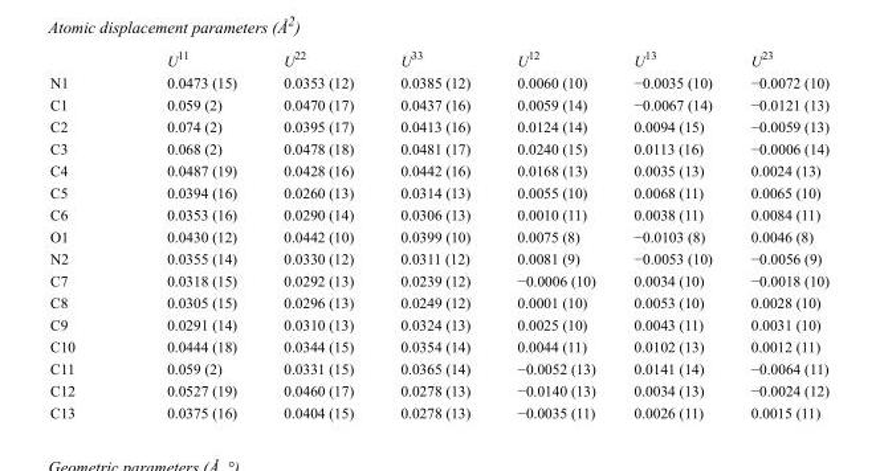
<table><thead><tr><td></td><td>U<sup>11</sup></td><td>U<sup>22</sup></td><td>U<sup>33</sup></td><td>U<sup>12</sup></td><td>U<sup>13</sup></td><td>U<sup>23</sup></td></tr></thead><tbody><tr><td>N1</td><td>0.0473 (15)</td><td>0.0353 (12)</td><td>0.0385 (12)</td><td>0.0060 (10)</td><td>−0.0035 (10)</td><td>−0.0072 (10)</td></tr><tr><td>C1</td><td>0.059 (2)</td><td>0.0470 (17)</td><td>0.0437 (16)</td><td>0.0059 (14)</td><td>−0.0067 (14)</td><td>−0.0121 (13)</td></tr><tr><td>C2</td><td>0.074 (2)</td><td>0.0395 (17)</td><td>0.0413 (16)</td><td>0.0124 (14)</td><td>0.0094 (15)</td><td>−0.0059 (13)</td></tr><tr><td>C3</td><td>0.068 (2)</td><td>0.0478 (18)</td><td>0.0481 (17)</td><td>0.0240 (15)</td><td>0.0113 (16)</td><td>−0.0006 (14)</td></tr><tr><td>C4</td><td>0.0487 (19)</td><td>0.0428 (16)</td><td>0.0442 (16)</td><td>0.0168 (13)</td><td>0.0035 (13)</td><td>0.0024 (13)</td></tr><tr><td>C5</td><td>0.0394 (16)</td><td>0.0260 (13)</td><td>0.0314 (13)</td><td>0.0055 (10)</td><td>0.0068 (11)</td><td>0.0065 (10)</td></tr><tr><td>C6</td><td>0.0353 (16)</td><td>0.0290 (14)</td><td>0.0306 (13)</td><td>0.0010 (11)</td><td>0.0038 (11)</td><td>0.0084 (11)</td></tr><tr><td>O1</td><td>0.0430 (12)</td><td>0.0442 (10)</td><td>0.0399 (10)</td><td>0.0075 (8)</td><td>−0.0103 (8)</td><td>0.0046 (8)</td></tr><tr><td>N2</td><td>0.0355 (14)</td><td>0.0330 (12)</td><td>0.0311 (12)</td><td>0.0081 (9)</td><td>−0.0053 (10)</td><td>−0.0056 (9)</td></tr><tr><td>C7</td><td>0.0318 (15)</td><td>0.0292 (13)</td><td>0.0239 (12)</td><td>−0.0006 (10)</td><td>0.0034 (10)</td><td>−0.0018 (10)</td></tr><tr><td>C8</td><td>0.0305 (15)</td><td>0.0296 (13)</td><td>0.0249 (12)</td><td>0.0001 (10)</td><td>0.0053 (10)</td><td>0.0028 (10)</td></tr><tr><td>C9</td><td>0.0291 (14)</td><td>0.0310 (13)</td><td>0.0324 (13)</td><td>0.0025 (10)</td><td>0.0043 (11)</td><td>0.0031 (10)</td></tr><tr><td>C10</td><td>0.0444 (18)</td><td>0.0344 (15)</td><td>0.0354 (14)</td><td>0.0044 (11)</td><td>0.0102 (13)</td><td>0.0012 (11)</td></tr><tr><td>C11</td><td>0.059 (2)</td><td>0.0331 (15)</td><td>0.0365 (14)</td><td>−0.0052 (13)</td><td>0.0141 (14)</td><td>−0.0064 (11)</td></tr><tr><td>C12</td><td>0.0527 (19)</td><td>0.0460 (17)</td><td>0.0278 (13)</td><td>−0.0140 (13)</td><td>0.0034 (13)</td><td>−0.0024 (12)</td></tr><tr><td>C13</td><td>0.0375 (16)</td><td>0.0404 (15)</td><td>0.0278 (13)</td><td>−0.0035 (11)</td><td>0.0026 (11)</td><td>0.0015 (11)</td></tr></tbody></table>